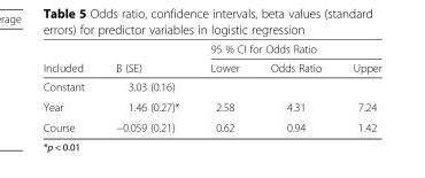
<table><thead><tr><td rowspan="2">Included</td><td rowspan="2">B (SE)</td><td colspan="3">95 % CI for Odds Ratio</td></tr><tr><td>Lower</td><td>Odds Ratio</td><td>Upper</td></tr></thead><tbody><tr><td>Constant</td><td>3.03 (0.16)</td><td colspan="3"></td></tr><tr><td>Year</td><td>1.46 (0.27)*</td><td>2.58</td><td>4.31</td><td>7.24</td></tr><tr><td>Course</td><td>−0.059 (0.21)</td><td>0.62</td><td>0.94</td><td>1.42</td></tr></tbody></table>